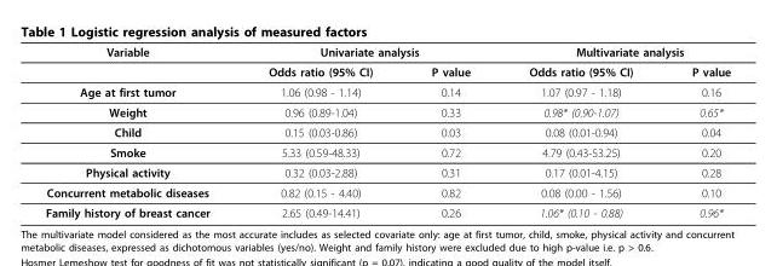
<table><thead><tr><td rowspan="2">Variable</td><td colspan="2">Univariate analysis</td><td colspan="2">Multivariate analysis</td></tr><tr><td>Odds ratio (95% CI)</td><td>P value</td><td>Odds ratio (95% CI)</td><td>P value</td></tr></thead><tbody><tr><td>Age at first tumor</td><td>1.06 (0.98 - 1.14)</td><td>0.14</td><td>1.07 (0.97 - 1.18)</td><td>0.16</td></tr><tr><td>Weight</td><td>0.96 (0.89-1.04)</td><td>0.33</td><td>0.98* (0.90-1.07)</td><td>0.65*</td></tr><tr><td>Child</td><td>0.15 (0.03-0.86)</td><td>0.03</td><td>0.08 (0.01-0.94)</td><td>0.04</td></tr><tr><td>Smoke</td><td>5.33 (0.59-48.33)</td><td>0.72</td><td>4.79 (0.43-53.25)</td><td>0.20</td></tr><tr><td>Physical activity</td><td>0.32 (0.03-2.88)</td><td>0.31</td><td>0.17 (0.01-4.15)</td><td>0.28</td></tr><tr><td>Concurrent metabolic diseases</td><td>0.82 (0.15 - 4.40)</td><td>0.82</td><td>0.08 (0.00 - 1.56)</td><td>0.10</td></tr><tr><td>Family history of breast cancer</td><td>2.65 (0.49-14.41)</td><td>0.26</td><td>1.06* (0.10 - 0.88)</td><td>0.96*</td></tr></tbody></table>